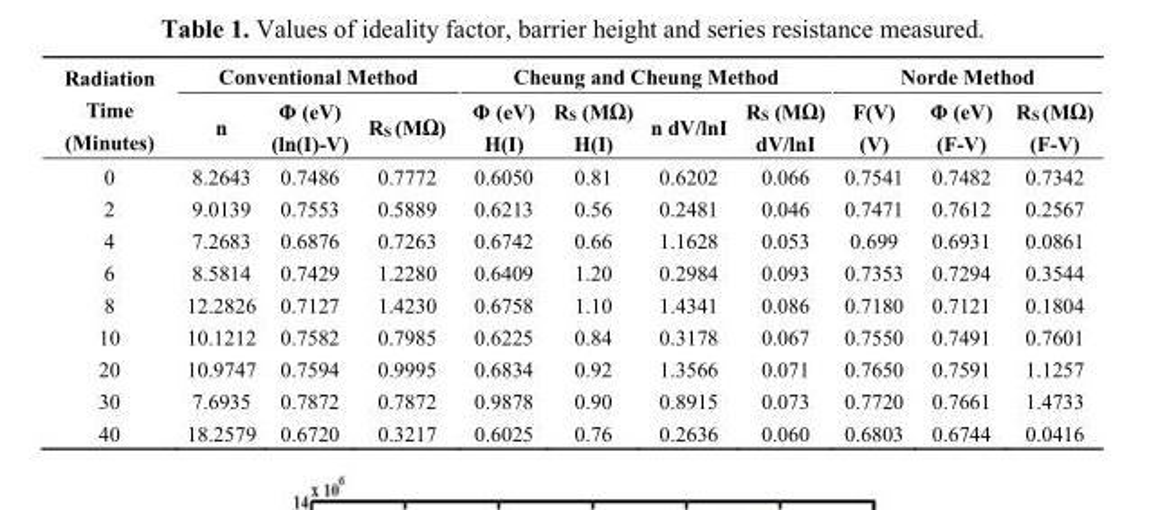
<table><thead><tr><td rowspan="2">Radiation Time (Minutes)</td><td colspan="3">Conventional Method</td><td colspan="4">Cheung and Cheung Method</td><td colspan="3">Norde Method</td></tr><tr><td>n</td><td>Φ (eV) (ln(I)-V)</td><td>R<sub>S</sub> (MΩ)</td><td>Φ (eV) H(I)</td><td>R<sub>S</sub> (MΩ) H(I)</td><td>n dV/lnI</td><td>R<sub>S</sub> (MΩ) dV/lnI</td><td>F(V) (V)</td><td>Φ (eV) (F-V)</td><td>R<sub>S</sub> (MΩ) (F-V)</td></tr></thead><tbody><tr><td>0</td><td>8.2643</td><td>0.7486</td><td>0.7772</td><td>0.6050</td><td>0.81</td><td>0.6202</td><td>0.066</td><td>0.7541</td><td>0.7482</td><td>0.7342</td></tr><tr><td>2</td><td>9.0139</td><td>0.7553</td><td>0.5889</td><td>0.6213</td><td>0.56</td><td>0.2481</td><td>0.046</td><td>0.7471</td><td>0.7612</td><td>0.2567</td></tr><tr><td>4</td><td>7.2683</td><td>0.6876</td><td>0.7263</td><td>0.6742</td><td>0.66</td><td>1.1628</td><td>0.053</td><td>0.699</td><td>0.6931</td><td>0.0861</td></tr><tr><td>6</td><td>8.5814</td><td>0.7429</td><td>1.2280</td><td>0.6409</td><td>1.20</td><td>0.2984</td><td>0.093</td><td>0.7353</td><td>0.7294</td><td>0.3544</td></tr><tr><td>8</td><td>12.2826</td><td>0.7127</td><td>1.4230</td><td>0.6758</td><td>1.10</td><td>1.4341</td><td>0.086</td><td>0.7180</td><td>0.7121</td><td>0.1804</td></tr><tr><td>10</td><td>10.1212</td><td>0.7582</td><td>0.7985</td><td>0.6225</td><td>0.84</td><td>0.3178</td><td>0.067</td><td>0.7550</td><td>0.7491</td><td>0.7601</td></tr><tr><td>20</td><td>10.9747</td><td>0.7594</td><td>0.9995</td><td>0.6834</td><td>0.92</td><td>1.3566</td><td>0.071</td><td>0.7650</td><td>0.7591</td><td>1.1257</td></tr><tr><td>30</td><td>7.6935</td><td>0.7872</td><td>0.7872</td><td>0.9878</td><td>0.90</td><td>0.8915</td><td>0.073</td><td>0.7720</td><td>0.7661</td><td>1.4733</td></tr><tr><td>40</td><td>18.2579</td><td>0.6720</td><td>0.3217</td><td>0.6025</td><td>0.76</td><td>0.2636</td><td>0.060</td><td>0.6803</td><td>0.6744</td><td>0.0416</td></tr></tbody></table>